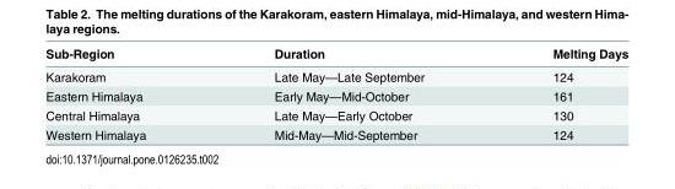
<table><thead><tr><td>Sub-Region</td><td>Duration</td><td>Melting Days</td></tr></thead><tbody><tr><td>Karakoram</td><td>Late May—Late September</td><td>124</td></tr><tr><td>Eastern Himalaya</td><td>Early May—Mid-October</td><td>161</td></tr><tr><td>Central Himalaya</td><td>Late May—Early October</td><td>130</td></tr><tr><td>Western Himalaya</td><td>Mid-May—Mid-September</td><td>124</td></tr></tbody></table>